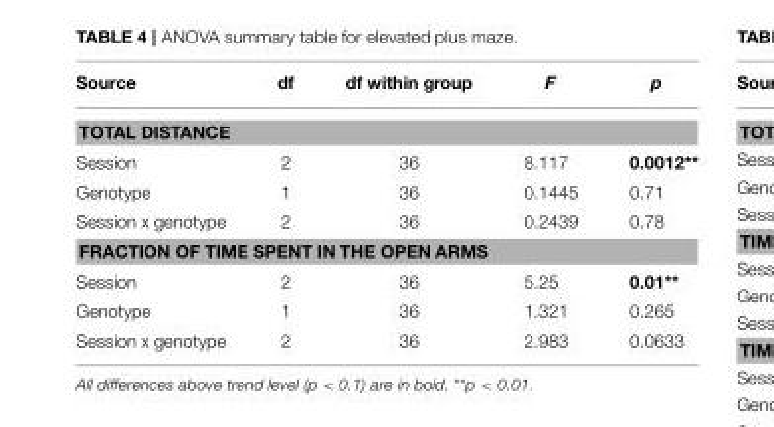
<table><thead><tr><td>Source</td><td>df</td><td>df within group</td><td>F</td><td>p</td></tr></thead><tbody><tr><td colspan="5">TOTAL DISTANCE</td></tr><tr><td>Session</td><td>2</td><td>36</td><td>8.117</td><td>0.0012**</td></tr><tr><td>Genotype</td><td>1</td><td>36</td><td>0.1445</td><td>0.71</td></tr><tr><td>Session x genotype</td><td>2</td><td>36</td><td>0.2439</td><td>0.78</td></tr><tr><td colspan="5">FRACTION OF TIME SPENT IN THE OPEN ARMS</td></tr><tr><td>Session</td><td>2</td><td>36</td><td>5.25</td><td>0.01**</td></tr><tr><td>Genotype</td><td>1</td><td>36</td><td>1.321</td><td>0.265</td></tr><tr><td>Session x genotype</td><td>2</td><td>36</td><td>2.983</td><td>0.0633</td></tr></tbody></table>